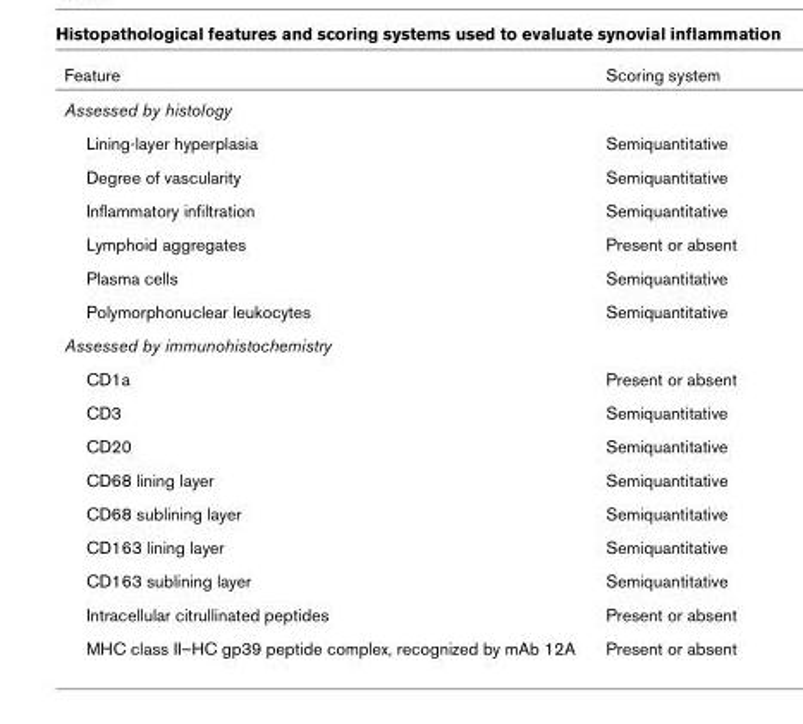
<table><thead><tr><td>Feature</td><td>Scoring system</td></tr></thead><tbody><tr><td colspan="2">Assessed by histology</td></tr><tr><td>Lining-layer hyperplasia</td><td>Semiquantitative</td></tr><tr><td>Degree of vascularity</td><td>Semiquantitative</td></tr><tr><td>Inflammatory infiltration</td><td>Semiquantitative</td></tr><tr><td>Lymphoid aggregates</td><td>Present or absent</td></tr><tr><td>Plasma cells</td><td>Semiquantitative</td></tr><tr><td>Polymorphonuclear leukocytes</td><td>Semiquantitative</td></tr><tr><td colspan="2">Assessed by immunohistochemistry</td></tr><tr><td>CD1a</td><td>Present or absent</td></tr><tr><td>CD3</td><td>Semiquantitative</td></tr><tr><td>CD20</td><td>Semiquantitative</td></tr><tr><td>CD68 lining layer</td><td>Semiquantitative</td></tr><tr><td>CD68 sublining layer</td><td>Semiquantitative</td></tr><tr><td>CD163 lining layer</td><td>Semiquantitative</td></tr><tr><td>CD163 sublining layer</td><td>Semiquantitative</td></tr><tr><td>Intracellular citrullinated peptides</td><td>Present or absent</td></tr><tr><td>MHC class II–HC gp39 peptide complex, recognized by mAb 12A</td><td>Present or absent</td></tr></tbody></table>